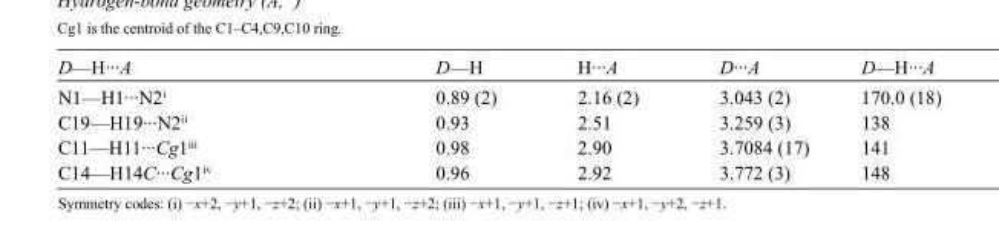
<table><tbody><tr><td>D—H···A</td><td>D—H</td><td>H···A</td><td>D···A</td><td>D—H···A</td></tr><tr><td>N1—H1···N2<sup>i</sup></td><td>0.89 (2)</td><td>2.16 (2)</td><td>3.043 (2)</td><td>170.0 (18)</td></tr><tr><td>C19—H19···N2<sup>ii</sup></td><td>0.93</td><td>2.51</td><td>3.259 (3)</td><td>138</td></tr><tr><td>C11—H11···Cg1<sup>iii</sup></td><td>0.98</td><td>2.90</td><td>3.7084 (17)</td><td>141</td></tr><tr><td>C14—H14C···Cg1<sup>iv</sup></td><td>0.96</td><td>2.92</td><td>3.772 (3)</td><td>148</td></tr></tbody></table>